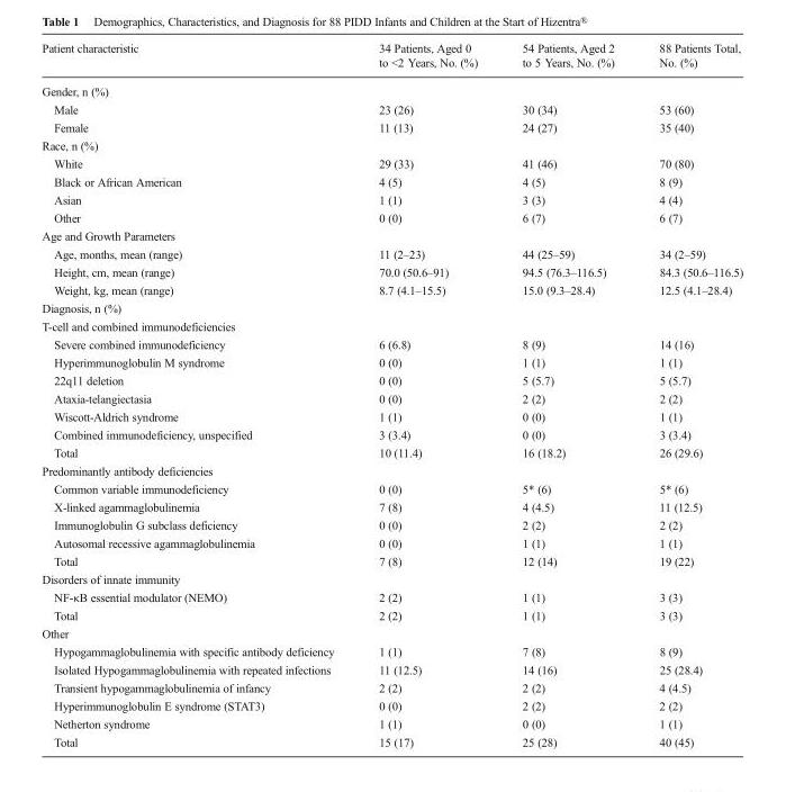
<table><thead><tr><td>Patient characteristic</td><td>34 Patients, Aged 0 to &lt;2 Years, No. (%)</td><td>54 Patients, Aged 2 to 5 Years, No. (%)</td><td>88 Patients Total, No. (%)</td></tr></thead><tbody><tr><td colspan="4">Gender, n (%)</td></tr><tr><td>Male</td><td>23 (26)</td><td>30 (34)</td><td>53 (60)</td></tr><tr><td>Female</td><td>11 (13)</td><td>24 (27)</td><td>35 (40)</td></tr><tr><td colspan="4">Race, n (%)</td></tr><tr><td>White</td><td>29 (33)</td><td>41 (46)</td><td>70 (80)</td></tr><tr><td>Black or African American</td><td>4 (5)</td><td>4 (5)</td><td>8 (9)</td></tr><tr><td>Asian</td><td>1 (1)</td><td>3 (3)</td><td>4 (4)</td></tr><tr><td>Other</td><td>0 (0)</td><td>6 (7)</td><td>6 (7)</td></tr><tr><td colspan="4">Age and Growth Parameters</td></tr><tr><td>Age, months, mean (range)</td><td>11 (2–23)</td><td>44 (25–59)</td><td>34 (2–59)</td></tr><tr><td>Height, cm, mean (range)</td><td>70.0 (50.6–91)</td><td>94.5 (76.3–116.5)</td><td>84.3 (50.6–116.5)</td></tr><tr><td>Weight, kg, mean (range)</td><td>8.7 (4.1–15.5)</td><td>15.0 (9.3–28.4)</td><td>12.5 (4.1–28.4)</td></tr><tr><td colspan="4">Diagnosis, n (%)</td></tr><tr><td colspan="4">T-cell and combined immunodeficiencies</td></tr><tr><td>Severe combined immunodeficiency</td><td>6 (6.8)</td><td>8 (9)</td><td>14 (16)</td></tr><tr><td>Hyperimmunoglobulin M syndrome</td><td>0 (0)</td><td>1 (1)</td><td>1 (1)</td></tr><tr><td>22q11 deletion</td><td>0 (0)</td><td>5 (5.7)</td><td>5 (5.7)</td></tr><tr><td>Ataxia-telangiectasia</td><td>0 (0)</td><td>2 (2)</td><td>2 (2)</td></tr><tr><td>Wiscott-Aldrich syndrome</td><td>1 (1)</td><td>0 (0)</td><td>1 (1)</td></tr><tr><td>Combined immunodeficiency, unspecified</td><td>3 (3.4)</td><td>0 (0)</td><td>3 (3.4)</td></tr><tr><td>Total</td><td>10 (11.4)</td><td>16 (18.2)</td><td>26 (29.6)</td></tr><tr><td colspan="4">Predominantly antibody deficiencies</td></tr><tr><td>Common variable immunodeficiency</td><td>0 (0)</td><td>5* (6)</td><td>5* (6)</td></tr><tr><td>X-linked agammaglobulinemia</td><td>7 (8)</td><td>4 (4.5)</td><td>11 (12.5)</td></tr><tr><td>Immunoglobulin G subclass deficiency</td><td>0 (0)</td><td>2 (2)</td><td>2 (2)</td></tr><tr><td>Autosomal recessive agammaglobulinemia</td><td>0 (0)</td><td>1 (1)</td><td>1 (1)</td></tr><tr><td>Total</td><td>7 (8)</td><td>12 (14)</td><td>19 (22)</td></tr><tr><td colspan="4">Disorders of innate immunity</td></tr><tr><td>NF-κB essential modulator (NEMO)</td><td>2 (2)</td><td>1 (1)</td><td>3 (3)</td></tr><tr><td>Total</td><td>2 (2)</td><td>1 (1)</td><td>3 (3)</td></tr><tr><td colspan="4">Other</td></tr><tr><td>Hypogammaglobulinemia with specific antibody deficiency</td><td>1 (1)</td><td>7 (8)</td><td>8 (9)</td></tr><tr><td>Isolated Hypogammaglobulinemia with repeated infections</td><td>11 (12.5)</td><td>14 (16)</td><td>25 (28.4)</td></tr><tr><td>Transient hypogammaglobulinemia of infancy</td><td>2 (2)</td><td>2 (2)</td><td>4 (4.5)</td></tr><tr><td>Hyperimmunoglobulin E syndrome (STAT3)</td><td>0 (0)</td><td>2 (2)</td><td>2 (2)</td></tr><tr><td>Netherton syndrome</td><td>1 (1)</td><td>0 (0)</td><td>1 (1)</td></tr><tr><td>Total</td><td>15 (17)</td><td>25 (28)</td><td>40 (45)</td></tr></tbody></table>